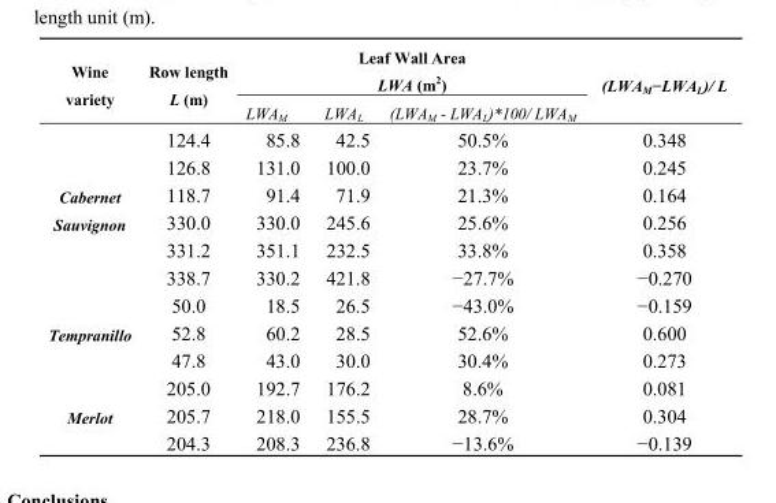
<table><thead><tr><td rowspan="2">Wine variety</td><td rowspan="2">Row length L (m)</td><td colspan="3">Leaf Wall Area LWA (m<sup>2</sup>)</td><td rowspan="2">(LWA<sub>M</sub>−LWA<sub>L</sub>)/ L</td></tr><tr><td>LWA<sub>M</sub></td><td>LWA<sub>L</sub></td><td>(LWA<sub>M</sub> - LWA<sub>L</sub>)*100/ LWA<sub>M</sub></td></tr></thead><tbody><tr><td rowspan="6">Cabernet Sauvignon</td><td>124.4</td><td>85.8</td><td>42.5</td><td>50.5%</td><td>0.348</td></tr><tr><td>126.8</td><td>131.0</td><td>100.0</td><td>23.7%</td><td>0.245</td></tr><tr><td>118.7</td><td>91.4</td><td>71.9</td><td>21.3%</td><td>0.164</td></tr><tr><td>330.0</td><td>330.0</td><td>245.6</td><td>25.6%</td><td>0.256</td></tr><tr><td>331.2</td><td>351.1</td><td>232.5</td><td>33.8%</td><td>0.358</td></tr><tr><td>338.7</td><td>330.2</td><td>421.8</td><td>−27.7%</td><td>−0.270</td></tr><tr><td rowspan="3">Tempranillo</td><td>50.0</td><td>18.5</td><td>26.5</td><td>−43.0%</td><td>−0.159</td></tr><tr><td>52.8</td><td>60.2</td><td>28.5</td><td>52.6%</td><td>0.600</td></tr><tr><td>47.8</td><td>43.0</td><td>30.0</td><td>30.4%</td><td>0.273</td></tr><tr><td rowspan="3">Merlot</td><td>205.0</td><td>192.7</td><td>176.2</td><td>8.6%</td><td>0.081</td></tr><tr><td>205.7</td><td>218.0</td><td>155.5</td><td>28.7%</td><td>0.304</td></tr><tr><td>204.3</td><td>208.3</td><td>236.8</td><td>−13.6%</td><td>−0.139</td></tr></tbody></table>